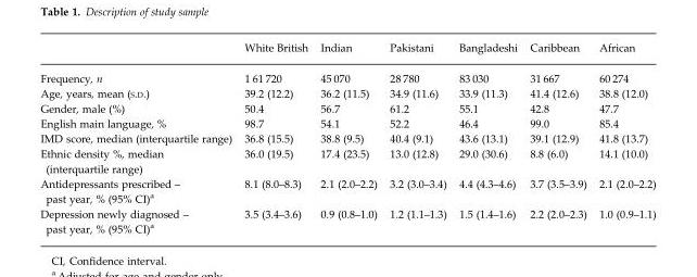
<table><thead><tr><td></td><td>White British</td><td>Indian</td><td>Pakistani</td><td>Bangladeshi</td><td>Caribbean</td><td>African</td></tr></thead><tbody><tr><td>Frequency, n</td><td>1 61 720</td><td>45 070</td><td>28 780</td><td>83 030</td><td>31 667</td><td>60 274</td></tr><tr><td>Age, years, mean (S.D.)</td><td>39.2 (12.2)</td><td>36.2 (11.5)</td><td>34.9 (11.6)</td><td>33.9 (11.3)</td><td>41.4 (12.6)</td><td>38.8 (12.0)</td></tr><tr><td>Gender, male (%)</td><td>50.4</td><td>56.7</td><td>61.2</td><td>55.1</td><td>42.8</td><td>47.7</td></tr><tr><td>English main language, %</td><td>98.7</td><td>54.1</td><td>52.2</td><td>46.4</td><td>99.0</td><td>85.4</td></tr><tr><td>IMD score, median (interquartile range)</td><td>36.8 (15.5)</td><td>38.8 (9.5)</td><td>40.4 (9.1)</td><td>43.6 (13.1)</td><td>39.1 (12.9)</td><td>41.8 (13.7)</td></tr><tr><td>Ethnic density %, median (interquartile range)</td><td>36.0 (19.5)</td><td>17.4 (23.5)</td><td>13.0 (12.8)</td><td>29.0 (30.6)</td><td>8.8 (6.0)</td><td>14.1 (10.0)</td></tr><tr><td>Antidepressants prescribed – past year, % (95% CI)<sup>a</sup></td><td>8.1 (8.0–8.3)</td><td>2.1 (2.0–2.2)</td><td>3.2 (3.0–3.4)</td><td>4.4 (4.3–4.6)</td><td>3.7 (3.5–3.9)</td><td>2.1 (2.0–2.2)</td></tr><tr><td>Depression newly diagnosed – past year, % (95% CI)<sup>a</sup></td><td>3.5 (3.4–3.6)</td><td>0.9 (0.8–1.0)</td><td>1.2 (1.1–1.3)</td><td>1.5 (1.4–1.6)</td><td>2.2 (2.0–2.3)</td><td>1.0 (0.9–1.1)</td></tr></tbody></table>